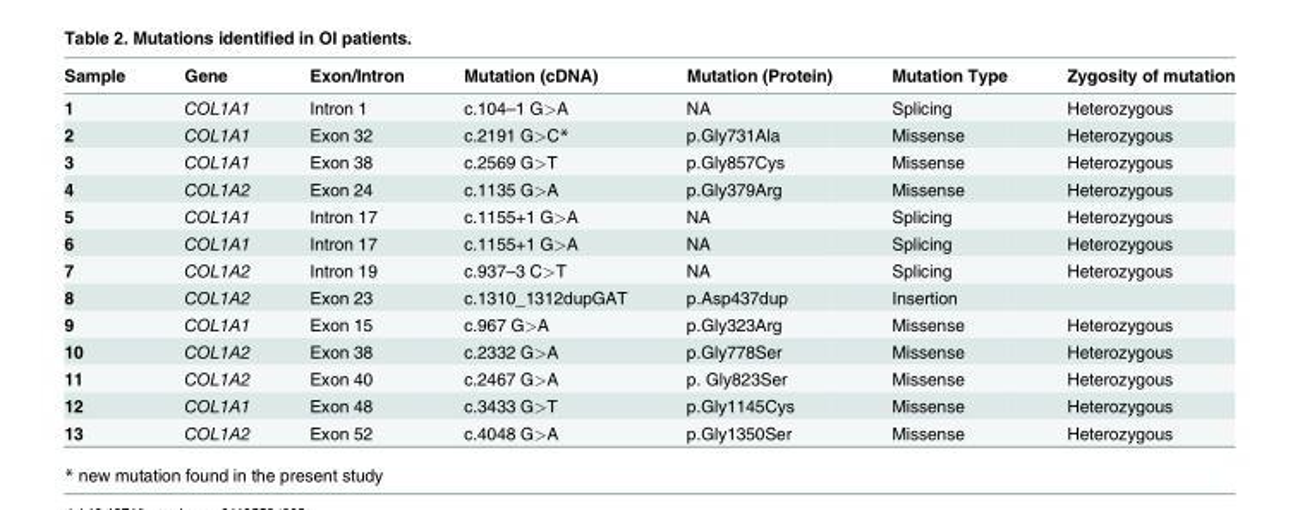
<table><thead><tr><td>Sample</td><td>Gene</td><td>Exon/Intron</td><td>Mutation (cDNA)</td><td>Mutation (Protein)</td><td>Mutation Type</td><td>Zygosity of mutation</td></tr></thead><tbody><tr><td>1</td><td>COL1A1</td><td>Intron 1</td><td>c.104–1 G&gt;A</td><td>NA</td><td>Splicing</td><td>Heterozygous</td></tr><tr><td>2</td><td>COL1A1</td><td>Exon 32</td><td>c.2191 G&gt;C*</td><td>p.Gly731Ala</td><td>Missense</td><td>Heterozygous</td></tr><tr><td>3</td><td>COL1A1</td><td>Exon 38</td><td>c.2569 G&gt;T</td><td>p.Gly857Cys</td><td>Missense</td><td>Heterozygous</td></tr><tr><td>4</td><td>COL1A2</td><td>Exon 24</td><td>c.1135 G&gt;A</td><td>p.Gly379Arg</td><td>Missense</td><td>Heterozygous</td></tr><tr><td>5</td><td>COL1A1</td><td>Intron 17</td><td>c.1155+1 G&gt;A</td><td>NA</td><td>Splicing</td><td>Heterozygous</td></tr><tr><td>6</td><td>COL1A1</td><td>Intron 17</td><td>c.1155+1 G&gt;A</td><td>NA</td><td>Splicing</td><td>Heterozygous</td></tr><tr><td>7</td><td>COL1A2</td><td>Intron 19</td><td>c.937–3 C&gt;T</td><td>NA</td><td>Splicing</td><td>Heterozygous</td></tr><tr><td>8</td><td>COL1A2</td><td>Exon 23</td><td>c.1310_1312dupGAT</td><td>p.Asp437dup</td><td>Insertion</td><td></td></tr><tr><td>9</td><td>COL1A1</td><td>Exon 15</td><td>c.967 G&gt;A</td><td>p.Gly323Arg</td><td>Missense</td><td>Heterozygous</td></tr><tr><td>10</td><td>COL1A2</td><td>Exon 38</td><td>c.2332 G&gt;A</td><td>p.Gly778Ser</td><td>Missense</td><td>Heterozygous</td></tr><tr><td>11</td><td>COL1A2</td><td>Exon 40</td><td>c.2467 G&gt;A</td><td>p. Gly823Ser</td><td>Missense</td><td>Heterozygous</td></tr><tr><td>12</td><td>COL1A1</td><td>Exon 48</td><td>c.3433 G&gt;T</td><td>p.Gly1145Cys</td><td>Missense</td><td>Heterozygous</td></tr><tr><td>13</td><td>COL1A2</td><td>Exon 52</td><td>c.4048 G&gt;A</td><td>p.Gly1350Ser</td><td>Missense</td><td>Heterozygous</td></tr></tbody></table>